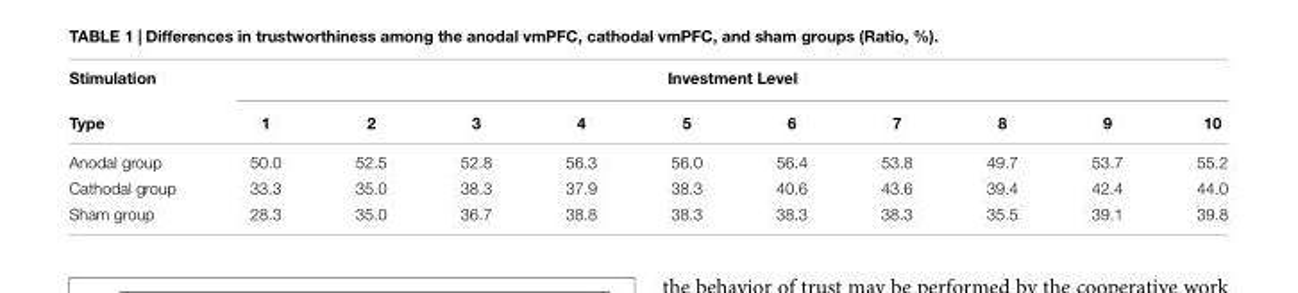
<table><thead><tr><td rowspan="2">Stimulation Type</td><td colspan="10">Investment Level</td></tr><tr><td>1</td><td>2</td><td>3</td><td>4</td><td>5</td><td>6</td><td>7</td><td>8</td><td>9</td><td>10</td></tr></thead><tbody><tr><td>Anodal group</td><td>50.0</td><td>52.5</td><td>52.8</td><td>56.3</td><td>56.0</td><td>56.4</td><td>53.8</td><td>49.7</td><td>53.7</td><td>55.2</td></tr><tr><td>Cathodal group</td><td>33.3</td><td>35.0</td><td>38.3</td><td>37.9</td><td>38.3</td><td>40.6</td><td>43.6</td><td>39.4</td><td>42.4</td><td>44.0</td></tr><tr><td>Sham group</td><td>28.3</td><td>35.0</td><td>36.7</td><td>38.8</td><td>38.3</td><td>38.3</td><td>38.3</td><td>35.5</td><td>39.1</td><td>39.8</td></tr></tbody></table>